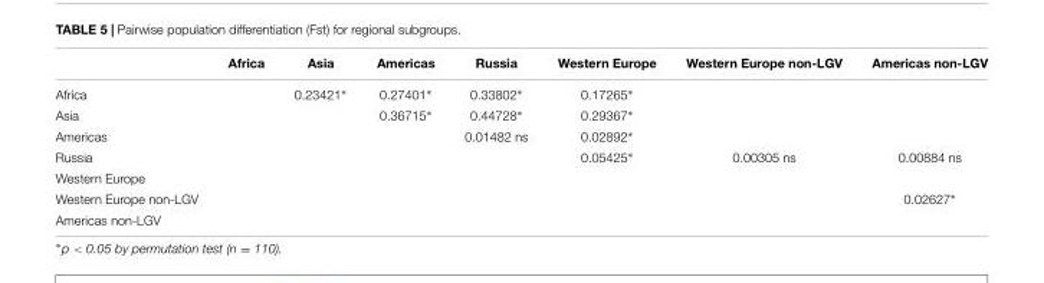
<table><thead><tr><td></td><td>Africa</td><td>Asia</td><td>Americas</td><td>Russia</td><td>Western Europe</td><td>Western Europe non-LGV</td><td>Americas non-LGV</td></tr></thead><tbody><tr><td>Africa</td><td></td><td>0.23421∗</td><td>0.27401∗</td><td>0.33802∗</td><td>0.17265∗</td><td></td><td></td></tr><tr><td>Asia</td><td></td><td></td><td>0.36715∗</td><td>0.44728∗</td><td>0.29367∗</td><td></td><td></td></tr><tr><td>Americas</td><td></td><td></td><td></td><td>0.01482 ns</td><td>0.02892∗</td><td></td><td></td></tr><tr><td>Russia</td><td></td><td></td><td></td><td></td><td>0.05425∗</td><td>0.00305 ns</td><td>0.00884 ns</td></tr><tr><td colspan="8">Western Europe</td></tr><tr><td>Western Europe non-LGV</td><td></td><td></td><td></td><td></td><td></td><td></td><td>0.02627∗</td></tr><tr><td>Americas non-LGV</td><td></td><td></td><td></td><td></td><td></td><td></td><td></td></tr></tbody></table>